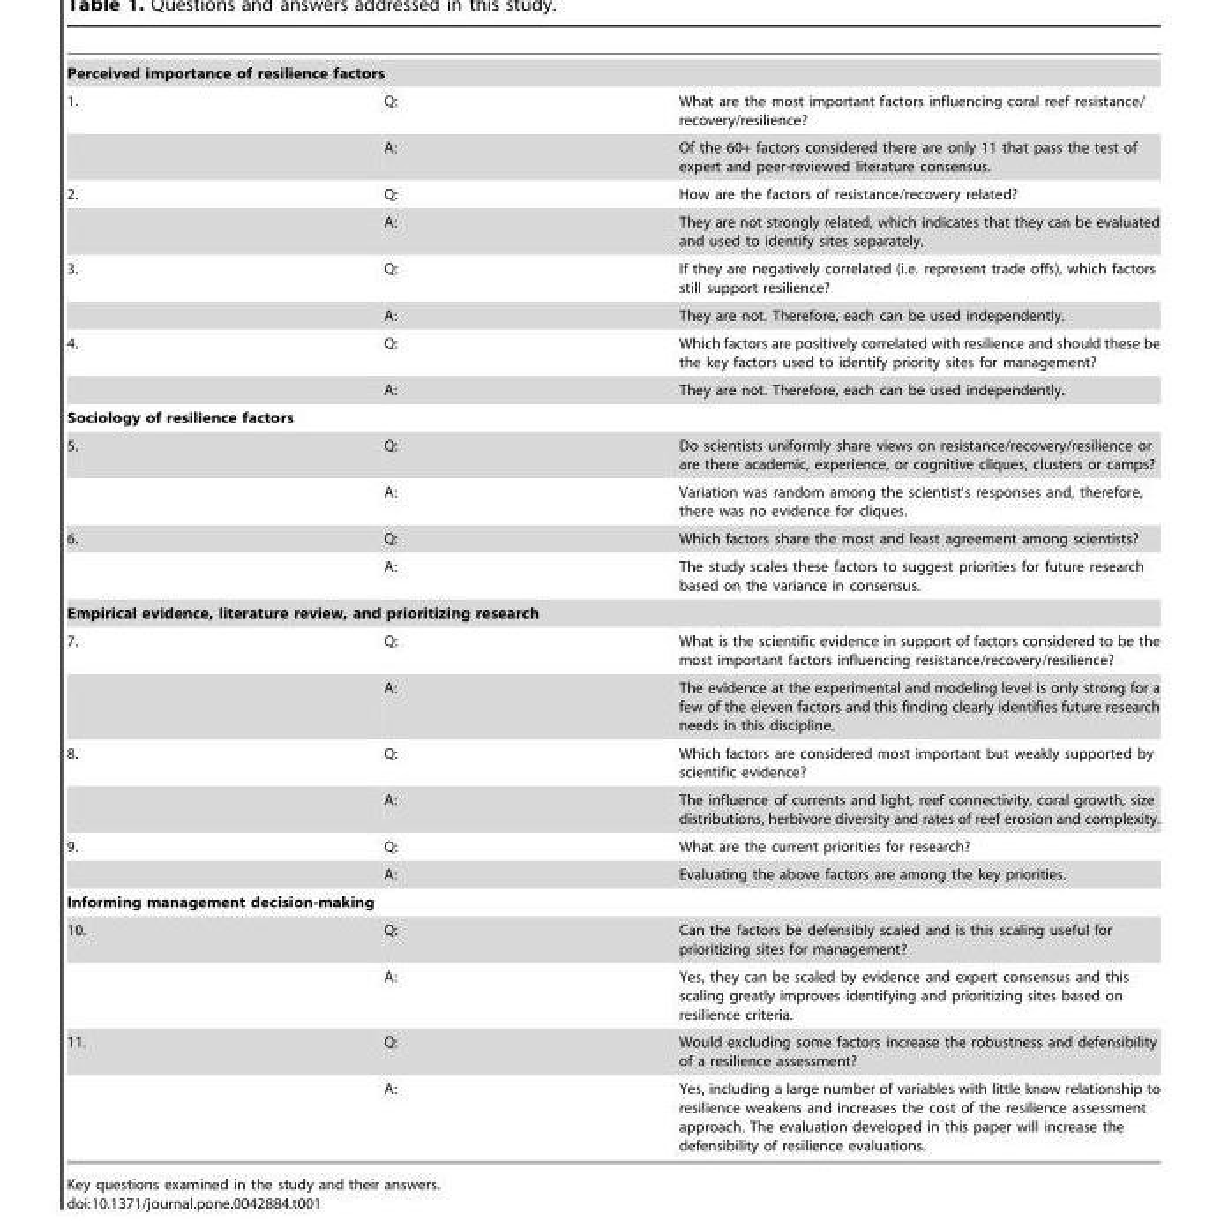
<table><tbody><tr><td colspan="3">Perceived importance of resilience factors</td></tr><tr><td rowspan="2">1.</td><td>Q:</td><td>What are the most important factors influencing coral reef resistance/ recovery/resilience?</td></tr><tr><td>A:</td><td>Of the 60+ factors considered there are only 11 that pass the test of expert and peer-reviewed literature consensus.</td></tr><tr><td rowspan="2">2.</td><td>Q:</td><td>How are the factors of resistance/recovery related?</td></tr><tr><td>A:</td><td>They are not strongly related, which indicates that they can be evaluated and used to identify sites separately.</td></tr><tr><td rowspan="2">3.</td><td>Q:</td><td>If they are negatively correlated (i.e. represent trade offs), which factors still support resilience?</td></tr><tr><td>A:</td><td>They are not. Therefore, each can be used independently.</td></tr><tr><td rowspan="2">4.</td><td>Q:</td><td>Which factors are positively correlated with resilience and should these be the key factors used to identify priority sites for management?</td></tr><tr><td>A:</td><td>They are not. Therefore, each can be used independently.</td></tr><tr><td colspan="3">Sociology of resilience factors</td></tr><tr><td rowspan="2">5.</td><td>Q:</td><td>Do scientists uniformly share views on resistance/recovery/resilience or are there academic, experience, or cognitive cliques, clusters or camps?</td></tr><tr><td>A:</td><td>Variation was random among the scientist’s responses and, therefore, there was no evidence for cliques.</td></tr><tr><td rowspan="2">6.</td><td>Q:</td><td>Which factors share the most and least agreement among scientists?</td></tr><tr><td>A:</td><td>The study scales these factors to suggest priorities for future research based on the variance in consensus.</td></tr><tr><td colspan="3">Empirical evidence, literature review, and prioritizing research</td></tr><tr><td rowspan="2">7.</td><td>Q:</td><td>What is the scientific evidence in support of factors considered to be the most important factors influencing resistance/recovery/resilience?</td></tr><tr><td>A:</td><td>The evidence at the experimental and modeling level is only strong for a few of the eleven factors and this finding clearly identifies future research needs in this discipline.</td></tr><tr><td rowspan="2">8.</td><td>Q:</td><td>Which factors are considered most important but weakly supported by scientific evidence?</td></tr><tr><td>A:</td><td>The influence of currents and light, reef connectivity, coral growth, size distributions, herbivore diversity and rates of reef erosion and complexity.</td></tr><tr><td rowspan="2">9.</td><td>Q:</td><td>What are the current priorities for research?</td></tr><tr><td>A:</td><td>Evaluating the above factors are among the key priorities.</td></tr><tr><td colspan="3">Informing management decision-making</td></tr><tr><td rowspan="2">10.</td><td>Q:</td><td>Can the factors be defensibly scaled and is this scaling useful for prioritizing sites for management?</td></tr><tr><td>A:</td><td>Yes, they can be scaled by evidence and expert consensus and this scaling greatly improves identifying and prioritizing sites based on resilience criteria.</td></tr><tr><td rowspan="2">11.</td><td>Q:</td><td>Would excluding some factors increase the robustness and defensibility of a resilience assessment?</td></tr><tr><td>A:</td><td>Yes, including a large number of variables with little know relationship to resilience weakens and increases the cost of the resilience assessment approach. The evaluation developed in this paper will increase the defensibility of resilience evaluations.</td></tr></tbody></table>